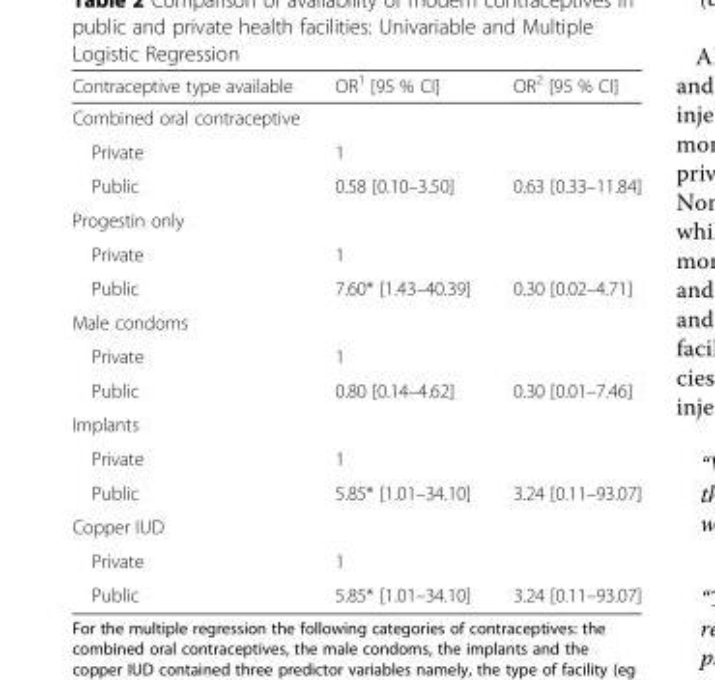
<table><thead><tr><td>Contraceptive type available</td><td>OR<sup>1</sup> [95 % CI]</td><td>OR<sup>2</sup> [95 % CI]</td></tr></thead><tbody><tr><td colspan="3">Combined oral contraceptive</td></tr><tr><td>Private</td><td>1</td><td></td></tr><tr><td>Public</td><td>0.58 [0.10–3.50]</td><td>0.63 [0.33–11.84]</td></tr><tr><td colspan="3">Progestin only</td></tr><tr><td>Private</td><td>1</td><td></td></tr><tr><td>Public</td><td>7.60* [1.43–40.39]</td><td>0.30 [0.02–4.71]</td></tr><tr><td colspan="3">Male condoms</td></tr><tr><td>Private</td><td>1</td><td></td></tr><tr><td>Public</td><td>0.80 [0.14–4.62]</td><td>0.30 [0.01–7.46]</td></tr><tr><td colspan="3">Implants</td></tr><tr><td>Private</td><td>1</td><td></td></tr><tr><td>Public</td><td>5.85* [1.01–34.10]</td><td>3.24 [0.11–93.07]</td></tr><tr><td colspan="3">Copper IUD</td></tr><tr><td>Private</td><td>1</td><td></td></tr><tr><td>Public</td><td>5.85* [1.01–34.10]</td><td>3.24 [0.11–93.07]</td></tr></tbody></table>